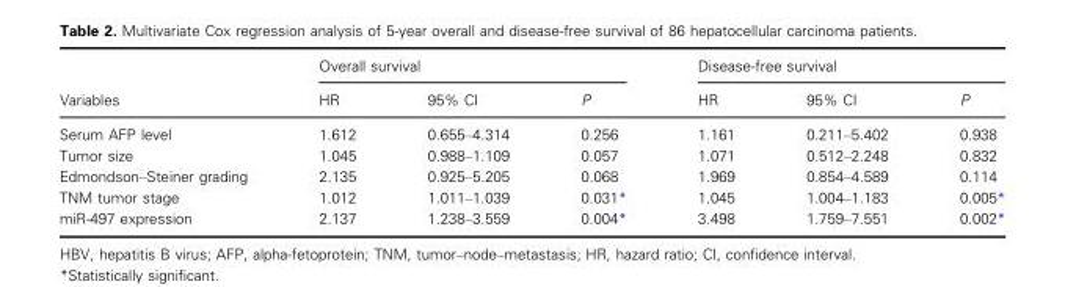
<table><thead><tr><td rowspan="2">Variables</td><td colspan="3">Overall survival</td><td colspan="3">Disease-free survival</td></tr><tr><td>HR</td><td>95% CI</td><td>P</td><td>HR</td><td>95% CI</td><td>P</td></tr></thead><tbody><tr><td>Serum AFP level</td><td>1.612</td><td>0.655–4.314</td><td>0.256</td><td>1.161</td><td>0.211–5.402</td><td>0.938</td></tr><tr><td>Tumor size</td><td>1.045</td><td>0.988–1.109</td><td>0.057</td><td>1.071</td><td>0.512–2.248</td><td>0.832</td></tr><tr><td>Edmondson–Steiner grading</td><td>2.135</td><td>0.925–5.205</td><td>0.068</td><td>1.969</td><td>0.854–4.589</td><td>0.114</td></tr><tr><td>TNM tumor stage</td><td>1.012</td><td>1.011–1.039</td><td>0.031*</td><td>1.045</td><td>1.004–1.183</td><td>0.005*</td></tr><tr><td>miR-497 expression</td><td>2.137</td><td>1.238–3.559</td><td>0.004*</td><td>3.498</td><td>1.759–7.551</td><td>0.002*</td></tr></tbody></table>